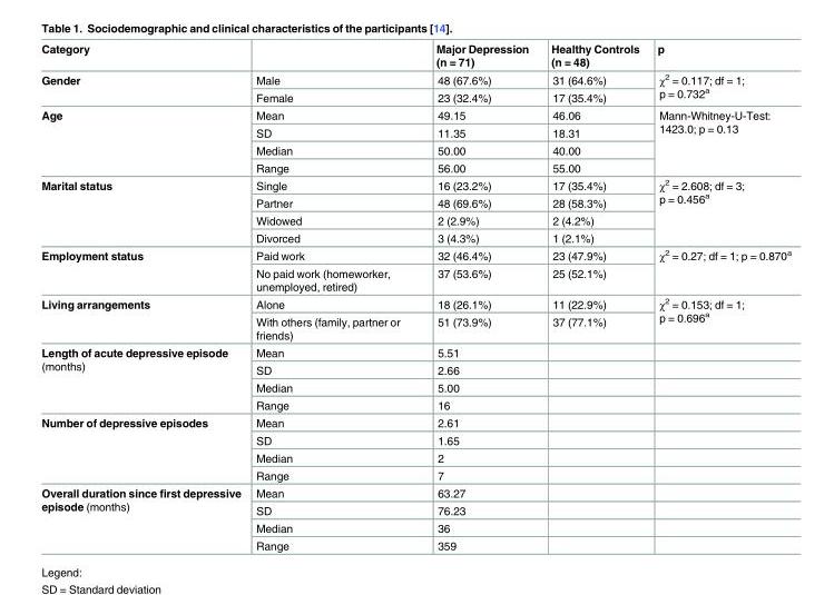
<table><thead><tr><td>Category</td><td></td><td>Major Depression (n = 71)</td><td>Healthy Controls (n = 48)</td><td>p</td></tr></thead><tbody><tr><td rowspan="2">Gender</td><td>Male</td><td>48 (67.6%)</td><td>31 (64.6%)</td><td rowspan="2">χ<sup>2</sup> = 0.117; df = 1; p = 0.732<sup>a</sup></td></tr><tr><td>Female</td><td>23 (32.4%)</td><td>17 (35.4%)</td></tr><tr><td rowspan="4">Age</td><td>Mean</td><td>49.15</td><td>46.06</td><td rowspan="4">Mann-Whitney-U-Test: 1423.0; p = 0.13</td></tr><tr><td>SD</td><td>11.35</td><td>18.31</td></tr><tr><td>Median</td><td>50.00</td><td>40.00</td></tr><tr><td>Range</td><td>56.00</td><td>55.00</td></tr><tr><td rowspan="4">Marital status</td><td>Single</td><td>16 (23.2%)</td><td>17 (35.4%)</td><td rowspan="4">χ<sup>2</sup> = 2.608; df = 3; p = 0.456<sup>a</sup></td></tr><tr><td>Partner</td><td>48 (69.6%)</td><td>28 (58.3%)</td></tr><tr><td>Widowed</td><td>2 (2.9%)</td><td>2 (4.2%)</td></tr><tr><td>Divorced</td><td>3 (4.3%)</td><td>1 (2.1%)</td></tr><tr><td rowspan="2">Employment status</td><td>Paid work</td><td>32 (46.4%)</td><td>23 (47.9%)</td><td rowspan="2">χ<sup>2</sup> = 0.27; df = 1; p = 0.870<sup>a</sup></td></tr><tr><td>No paid work (homeworker, unemployed, retired)</td><td>37 (53.6%)</td><td>25 (52.1%)</td></tr><tr><td rowspan="2">Living arrangements</td><td>Alone</td><td>18 (26.1%)</td><td>11 (22.9%)</td><td rowspan="2">χ<sup>2</sup> = 0.153; df = 1; p = 0.696<sup>a</sup></td></tr><tr><td>With others (family, partner or friends)</td><td>51 (73.9%)</td><td>37 (77.1%)</td></tr><tr><td rowspan="4">Length of acute depressive episode (months)</td><td>Mean</td><td>5.51</td><td></td><td></td></tr><tr><td>SD</td><td>2.66</td><td></td><td></td></tr><tr><td>Median</td><td>5.00</td><td></td><td></td></tr><tr><td>Range</td><td>16</td><td></td><td></td></tr><tr><td rowspan="4">Number of depressive episodes</td><td>Mean</td><td>2.61</td><td></td><td></td></tr><tr><td>SD</td><td>1.65</td><td></td><td></td></tr><tr><td>Median</td><td>2</td><td></td><td></td></tr><tr><td>Range</td><td>7</td><td></td><td></td></tr><tr><td rowspan="4">Overall duration since first depressive episode (months)</td><td>Mean</td><td>63.27</td><td></td><td></td></tr><tr><td>SD</td><td>76.23</td><td></td><td></td></tr><tr><td>Median</td><td>36</td><td></td><td></td></tr><tr><td>Range</td><td>359</td><td></td><td></td></tr></tbody></table>